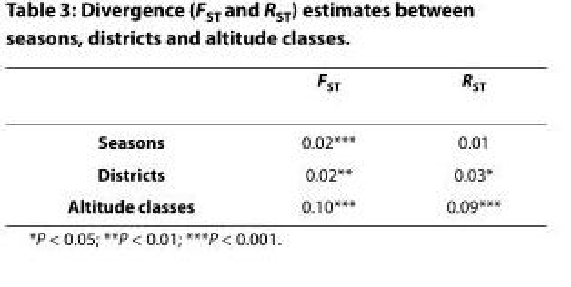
<table><thead><tr><td></td><td>F<sub>ST</sub></td><td>R<sub>ST</sub></td></tr></thead><tbody><tr><td>Seasons</td><td>0.02***</td><td>0.01</td></tr><tr><td>Districts</td><td>0.02**</td><td>0.03*</td></tr><tr><td>Altitude classes</td><td>0.10***</td><td>0.09***</td></tr></tbody></table>